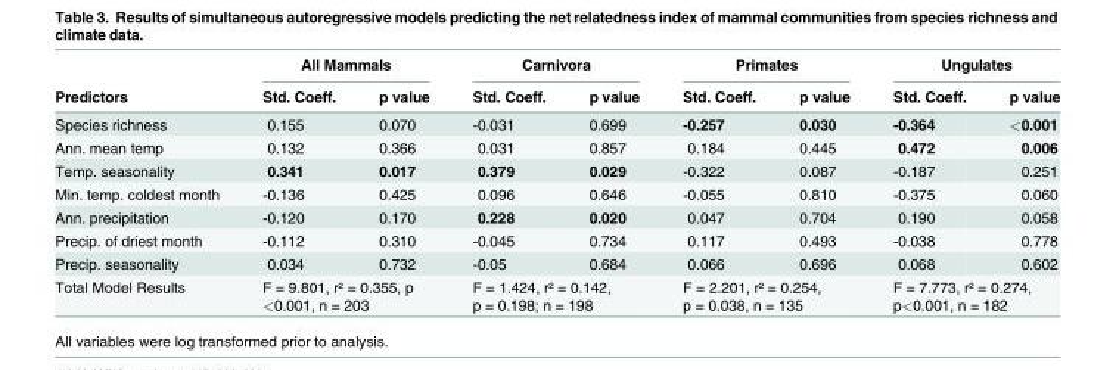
<table><thead><tr><td rowspan="2">Predictors</td><td colspan="2">All Mammals</td><td colspan="2">Carnivora</td><td colspan="2">Primates</td><td colspan="2">Ungulates</td></tr><tr><td>Std. Coeff.</td><td>p value</td><td>Std. Coeff.</td><td>p value</td><td>Std. Coeff.</td><td>p value</td><td>Std. Coeff.</td><td>p value</td></tr></thead><tbody><tr><td>Species richness</td><td>0.155</td><td>0.070</td><td>-0.031</td><td>0.699</td><td>-0.257</td><td>0.030</td><td>-0.364</td><td>&lt;0.001</td></tr><tr><td>Ann. mean temp</td><td>0.132</td><td>0.366</td><td>0.031</td><td>0.857</td><td>0.184</td><td>0.445</td><td>0.472</td><td>0.006</td></tr><tr><td>Temp. seasonality</td><td>0.341</td><td>0.017</td><td>0.379</td><td>0.029</td><td>-0.322</td><td>0.087</td><td>-0.187</td><td>0.251</td></tr><tr><td>Min. temp. coldest month</td><td>-0.136</td><td>0.425</td><td>0.096</td><td>0.646</td><td>-0.055</td><td>0.810</td><td>-0.375</td><td>0.060</td></tr><tr><td>Ann. precipitation</td><td>-0.120</td><td>0.170</td><td>0.228</td><td>0.020</td><td>0.047</td><td>0.704</td><td>0.190</td><td>0.058</td></tr><tr><td>Precip. of driest month</td><td>-0.112</td><td>0.310</td><td>-0.045</td><td>0.734</td><td>0.117</td><td>0.493</td><td>-0.038</td><td>0.778</td></tr><tr><td>Precip. seasonality</td><td>0.034</td><td>0.732</td><td>-0.05</td><td>0.684</td><td>0.066</td><td>0.696</td><td>0.068</td><td>0.602</td></tr><tr><td>Total Model Results</td><td colspan="2">F = 9.801, r² = 0.355, p &lt;0.001, n = 203</td><td colspan="2">F = 1.424, r² = 0.142, p = 0.198; n = 198</td><td colspan="2">F = 2.201, r² = 0.254, p = 0.038, n = 135</td><td colspan="2">F = 7.773, r² = 0.274, p&lt;0.001, n = 182</td></tr></tbody></table>